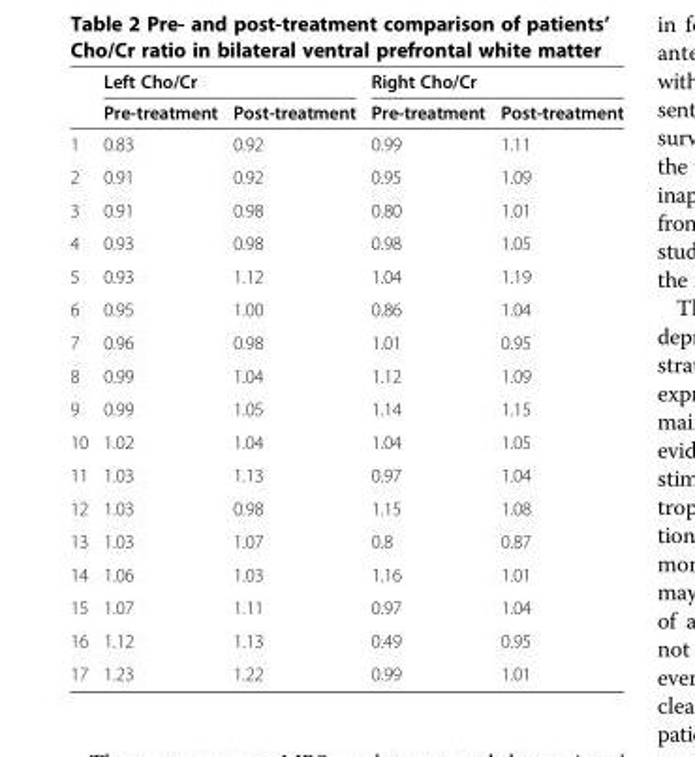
<table><thead><tr><td rowspan="2"></td><td colspan="2">Left Cho/Cr</td><td colspan="2">Right Cho/Cr</td></tr><tr><td>Pre-treatment</td><td>Post-treatment</td><td>Pre-treatment</td><td>Post-treatment</td></tr></thead><tbody><tr><td>1</td><td>0.83</td><td>0.92</td><td>0.99</td><td>1.11</td></tr><tr><td>2</td><td>0.91</td><td>0.92</td><td>0.95</td><td>1.09</td></tr><tr><td>3</td><td>0.91</td><td>0.98</td><td>0.80</td><td>1.01</td></tr><tr><td>4</td><td>0.93</td><td>0.98</td><td>0.98</td><td>1.05</td></tr><tr><td>5</td><td>0.93</td><td>1.12</td><td>1.04</td><td>1.19</td></tr><tr><td>6</td><td>0.95</td><td>1.00</td><td>0.86</td><td>1.04</td></tr><tr><td>7</td><td>0.96</td><td>0.98</td><td>1.01</td><td>0.95</td></tr><tr><td>8</td><td>0.99</td><td>1.04</td><td>1.12</td><td>1.09</td></tr><tr><td>9</td><td>0.99</td><td>1.05</td><td>1.14</td><td>1.15</td></tr><tr><td>10</td><td>1.02</td><td>1.04</td><td>1.04</td><td>1.05</td></tr><tr><td>11</td><td>1.03</td><td>1.13</td><td>0.97</td><td>1.04</td></tr><tr><td>12</td><td>1.03</td><td>0.98</td><td>1.15</td><td>1.08</td></tr><tr><td>13</td><td>1.03</td><td>1.07</td><td>0.8</td><td>0.87</td></tr><tr><td>14</td><td>1.06</td><td>1.03</td><td>1.16</td><td>1.01</td></tr><tr><td>15</td><td>1.07</td><td>1.11</td><td>0.97</td><td>1.04</td></tr><tr><td>16</td><td>1.12</td><td>1.13</td><td>0.49</td><td>0.95</td></tr><tr><td>17</td><td>1.23</td><td>1.22</td><td>0.99</td><td>1.01</td></tr></tbody></table>